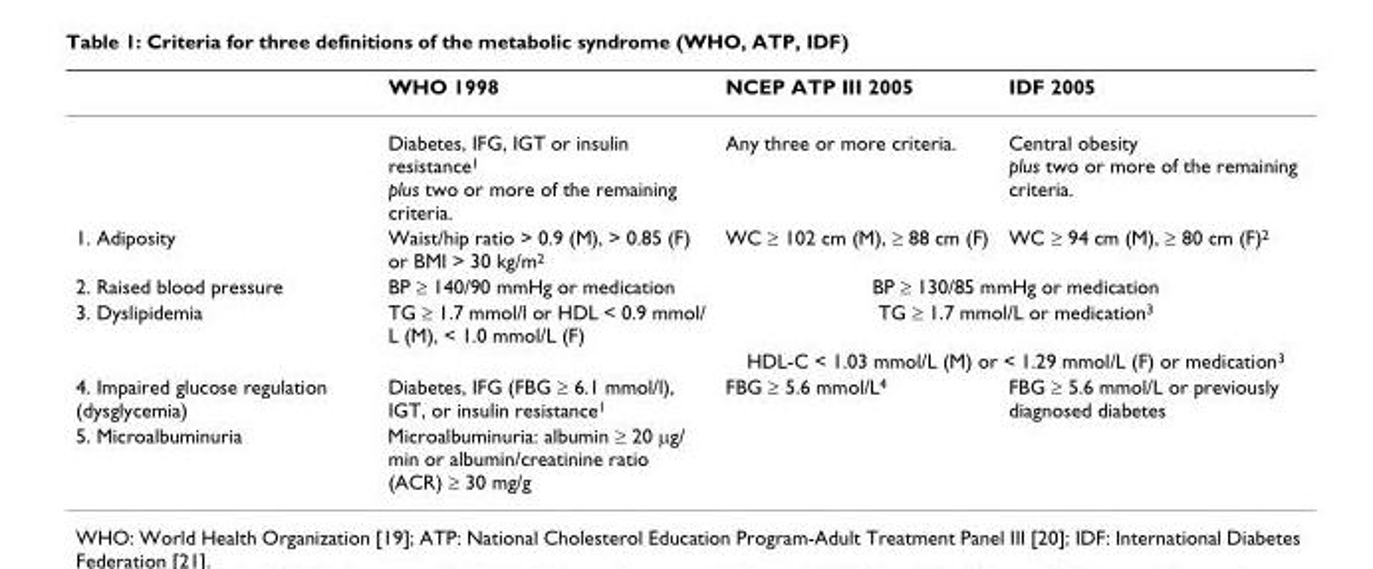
<table><thead><tr><td></td><td>WHO 1998</td><td>NCEP ATP III 2005</td><td>IDF 2005</td></tr></thead><tbody><tr><td></td><td>Diabetes, IFG, IGT or insulin resistance<sup>1</sup> plus two or more of the remaining criteria.</td><td>Any three or more criteria.</td><td>Central obesity plus two or more of the remaining criteria.</td></tr><tr><td>1. Adiposity</td><td>Waist/hip ratio &gt; 0.9 (M), &gt; 0.85 (F) or BMI &gt; 30 kg/m<sup>2</sup></td><td>WC ≥ 102 cm (M), ≥ 88 cm (F)</td><td>WC ≥ 94 cm (M), ≥ 80 cm (F)<sup>2</sup></td></tr><tr><td>2. Raised blood pressure</td><td>BP ≥ 140/90 mmHg or medication</td><td colspan="2">BP ≥ 130/85 mmHg or medication</td></tr><tr><td rowspan="2">3. Dyslipidemia</td><td>TG ≥ 1.7 mmol/l or HDL &lt; 0.9 mmol/ L (M), &lt; 1.0 mmol/L (F)</td><td colspan="2">TG ≥ 1.7 mmol/L or medication<sup>3</sup></td></tr><tr><td></td><td colspan="2">HDL-C &lt; 1.03 mmol/L (M) or &lt; 1.29 mmol/L (F) or medication<sup>3</sup></td></tr><tr><td>4. Impaired glucose regulation (dysglycemia)</td><td>Diabetes, IFG (FBG ≥ 6.1 mmol/l), IGT, or insulin resistance<sup>1</sup></td><td>FBG ≥ 5.6 mmol/L<sup>4</sup></td><td>FBG ≥ 5.6 mmol/L or previously diagnosed diabetes</td></tr><tr><td>5. Microalbuminuria</td><td>Microalbuminuria: albumin ≥ 20 μg/ min or albumin/creatinine ratio (ACR) ≥ 30 mg/g</td><td></td><td></td></tr></tbody></table>